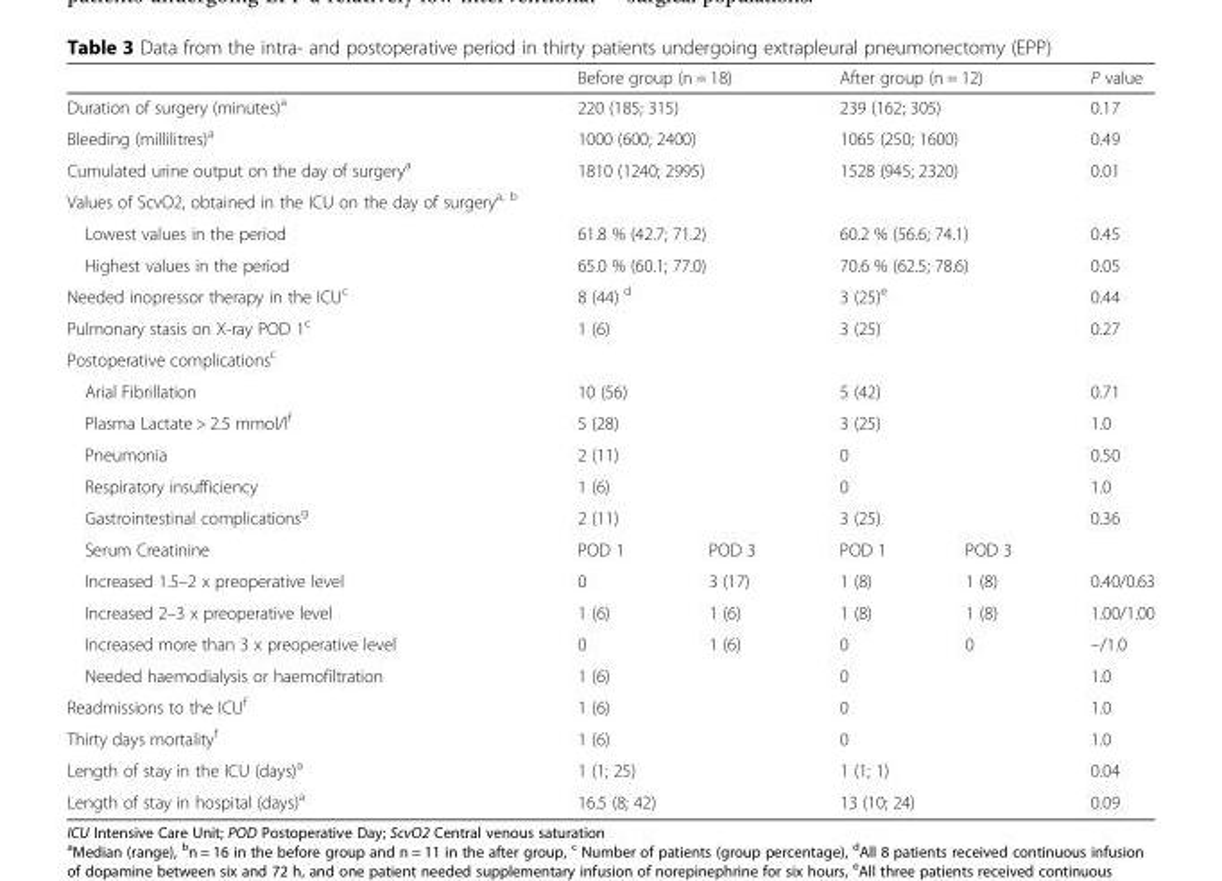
<table><thead><tr><td></td><td colspan="2">Before group (n = 18)</td><td colspan="2">After group (n = 12)</td><td>P value</td></tr></thead><tbody><tr><td>Duration of surgery (minutes)<sup>a</sup></td><td colspan="2">220 (185; 315)</td><td colspan="2">239 (162; 305)</td><td>0.17</td></tr><tr><td>Bleeding (millilitres)<sup>a</sup></td><td colspan="2">1000 (600; 2400)</td><td colspan="2">1065 (250; 1600)</td><td>0.49</td></tr><tr><td>Cumulated urine output on the day of surgery<sup>a</sup></td><td colspan="2">1810 (1240; 2995)</td><td colspan="2">1528 (945; 2320)</td><td>0.01</td></tr><tr><td colspan="6">Values of ScvO2, obtained in the ICU on the day of surgery<sup>a, b</sup></td></tr><tr><td>Lowest values in the period</td><td colspan="2">61.8 % (42.7; 71.2)</td><td colspan="2">60.2 % (56.6; 74.1)</td><td>0.45</td></tr><tr><td>Highest values in the period</td><td colspan="2">65.0 % (60.1; 77.0)</td><td colspan="2">70.6 % (62.5; 78.6)</td><td>0.05</td></tr><tr><td>Needed inopressor therapy in the ICU<sup>c</sup></td><td colspan="2">8 (44) <sup>d</sup></td><td colspan="2">3 (25)<sup>e</sup></td><td>0.44</td></tr><tr><td>Pulmonary stasis on X-ray POD 1<sup>c</sup></td><td colspan="2">1 (6)</td><td colspan="2">3 (25)</td><td>0.27</td></tr><tr><td colspan="6">Postoperative complications<sup>c</sup></td></tr><tr><td>Arial Fibrillation</td><td colspan="2">10 (56)</td><td colspan="2">5 (42)</td><td>0.71</td></tr><tr><td>Plasma Lactate &gt; 2.5 mmol/l<sup>f</sup></td><td colspan="2">5 (28)</td><td colspan="2">3 (25)</td><td>1.0</td></tr><tr><td>Pneumonia</td><td colspan="2">2 (11)</td><td colspan="2">0</td><td>0.50</td></tr><tr><td>Respiratory insufficiency</td><td colspan="2">1 (6)</td><td colspan="2">0</td><td>1.0</td></tr><tr><td>Gastrointestinal complications<sup>g</sup></td><td colspan="2">2 (11)</td><td colspan="2">3 (25)</td><td>0.36</td></tr><tr><td>Serum Creatinine</td><td>POD 1</td><td>POD 3</td><td>POD 1</td><td>POD 3</td><td></td></tr><tr><td>Increased 1.5–2 x preoperative level</td><td>0</td><td>3 (17)</td><td>1 (8)</td><td>1 (8)</td><td>0.40/0.63</td></tr><tr><td>Increased 2–3 x preoperative level</td><td>1 (6)</td><td>1 (6)</td><td>1 (8)</td><td>1 (8)</td><td>1.00/1.00</td></tr><tr><td>Increased more than 3 x preoperative level</td><td>0</td><td>1 (6)</td><td>0</td><td>0</td><td>–/1.0</td></tr><tr><td>Needed haemodialysis or haemofiltration</td><td colspan="2">1 (6)</td><td colspan="2">0</td><td>1.0</td></tr><tr><td>Readmissions to the ICU<sup>f</sup></td><td colspan="2">1 (6)</td><td colspan="2">0</td><td>1.0</td></tr><tr><td>Thirty days mortality<sup>f</sup></td><td colspan="2">1 (6)</td><td colspan="2">0</td><td>1.0</td></tr><tr><td>Length of stay in the ICU (days)<sup>a</sup></td><td colspan="2">1 (1; 25)</td><td colspan="2">1 (1; 1)</td><td>0.04</td></tr><tr><td>Length of stay in hospital (days)<sup>a</sup></td><td colspan="2">16.5 (8; 42)</td><td colspan="2">13 (10; 24)</td><td>0.09</td></tr></tbody></table>